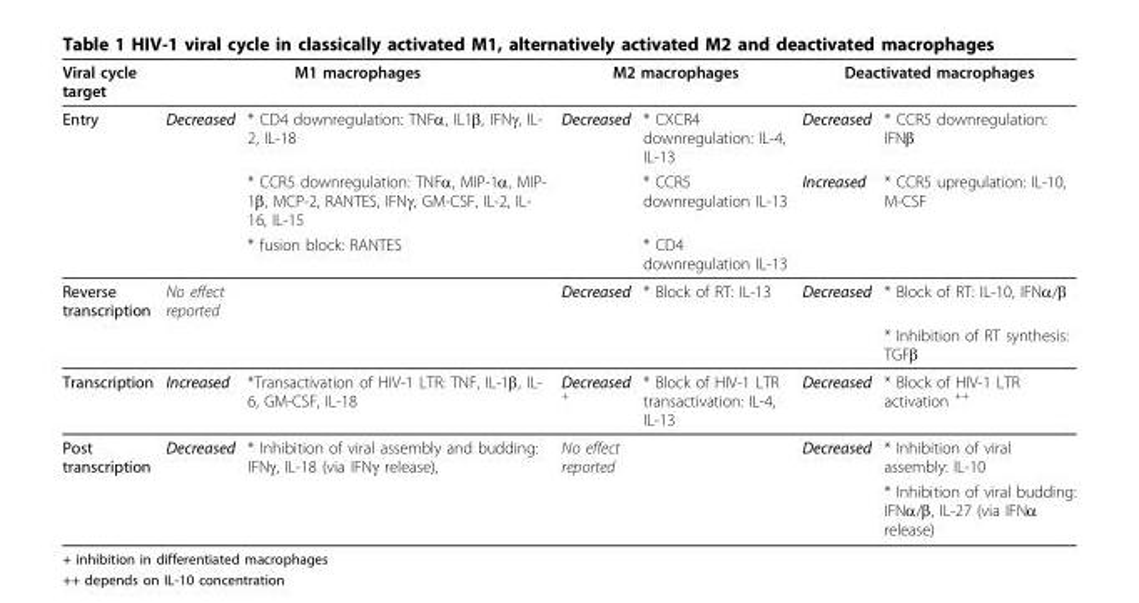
<table><thead><tr><td rowspan="2">Viral cycle target Entry</td><td colspan="2">M1 macrophages</td><td colspan="2">M2 macrophages</td><td colspan="2">Deactivated macrophages</td></tr><tr><td>Decreased</td><td>* CD4 downregulation: TNFα, IL1β, IFNγ, IL- 2, IL-18</td><td>Decreased</td><td>* CXCR4 downregulation: IL-4, IL-13</td><td>Decreased</td><td>* CCR5 downregulation: IFNβ</td></tr></thead><tbody><tr><td></td><td></td><td>* CCR5 downregulation: TNFα, MIP-1α, MIP- 1β, MCP-2, RANTES, IFNγ, GM-CSF, IL-2, IL- 16, IL-15</td><td></td><td>* CCR5 downregulation IL-13</td><td>Increased</td><td>* CCR5 upregulation: IL-10, M-CSF</td></tr><tr><td></td><td></td><td>* fusion block: RANTES</td><td></td><td>* CD4 downregulation IL-13</td><td></td><td></td></tr><tr><td rowspan="2">Reverse transcription</td><td>No effect reported</td><td></td><td>Decreased</td><td>* Block of RT: IL-13</td><td>Decreased</td><td>* Block of RT: IL-10, IFNα/β</td></tr><tr><td></td><td></td><td></td><td></td><td></td><td>* Inhibition of RT synthesis: TGFβ</td></tr><tr><td>Transcription</td><td>Increased</td><td>*Transactivation of HIV-1 LTR: TNF, IL-1β, IL- 6, GM-CSF, IL-18</td><td>Decreased <sup>+</sup></td><td>* Block of HIV-1 LTR transactivation: IL-4, IL-13</td><td>Decreased</td><td>* Block of HIV-1 LTR activation <sup>++</sup></td></tr><tr><td rowspan="2">Post transcription</td><td>Decreased</td><td>* Inhibition of viral assembly and budding: IFNγ, IL-18 (via IFNγ release),</td><td>No effect reported</td><td></td><td>Decreased</td><td>* Inhibition of viral assembly: IL-10</td></tr><tr><td></td><td></td><td></td><td></td><td></td><td>* Inhibition of viral budding: IFNα/β, IL-27 (via IFNα release)</td></tr></tbody></table>